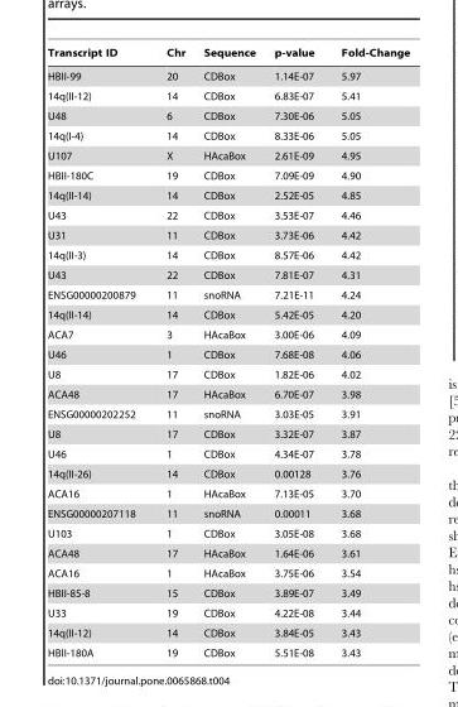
<table><thead><tr><td>Transcript ID</td><td>Chr</td><td>Sequence</td><td>p-value</td><td>Fold-Change</td></tr></thead><tbody><tr><td>HBII-99</td><td>20</td><td>CDBox</td><td>1.14E-07</td><td>5.97</td></tr><tr><td>14q(II-12)</td><td>14</td><td>CDBox</td><td>6.83E-07</td><td>5.41</td></tr><tr><td>U48</td><td>6</td><td>CDBox</td><td>7.30E-06</td><td>5.05</td></tr><tr><td>14q(I-4)</td><td>14</td><td>CDBox</td><td>8.33E-06</td><td>5.05</td></tr><tr><td>U107</td><td>X</td><td>HAcaBox</td><td>2.61E-09</td><td>4.95</td></tr><tr><td>HBII-180C</td><td>19</td><td>CDBox</td><td>7.09E-09</td><td>4.90</td></tr><tr><td>14q(II-14)</td><td>14</td><td>CDBox</td><td>2.52E-05</td><td>4.85</td></tr><tr><td>U43</td><td>22</td><td>CDBox</td><td>3.53E-07</td><td>4.46</td></tr><tr><td>U31</td><td>11</td><td>CDBox</td><td>3.73E-06</td><td>4.42</td></tr><tr><td>14q(II-3)</td><td>14</td><td>CDBox</td><td>8.57E-06</td><td>4.42</td></tr><tr><td>U43</td><td>22</td><td>CDBox</td><td>7.81E-07</td><td>4.31</td></tr><tr><td>ENSG00000200879</td><td>11</td><td>snoRNA</td><td>7.21E-11</td><td>4.24</td></tr><tr><td>14q(II-14)</td><td>14</td><td>CDBox</td><td>5.42E-05</td><td>4.20</td></tr><tr><td>ACA7</td><td>3</td><td>HAcaBox</td><td>3.00E-06</td><td>4.09</td></tr><tr><td>U46</td><td>1</td><td>CDBox</td><td>7.68E-08</td><td>4.06</td></tr><tr><td>U8</td><td>17</td><td>CDBox</td><td>1.82E-06</td><td>4.02</td></tr><tr><td>ACA48</td><td>17</td><td>HAcaBox</td><td>6.70E-07</td><td>3.98</td></tr><tr><td>ENSG00000202252</td><td>11</td><td>snoRNA</td><td>3.03E-05</td><td>3.91</td></tr><tr><td>U8</td><td>17</td><td>CDBox</td><td>3.32E-07</td><td>3.87</td></tr><tr><td>U46</td><td>1</td><td>CDBox</td><td>4.34E-07</td><td>3.78</td></tr><tr><td>14q(II-26)</td><td>14</td><td>CDBox</td><td>0.00128</td><td>3.76</td></tr><tr><td>ACA16</td><td>1</td><td>HAcaBox</td><td>7.13E-05</td><td>3.70</td></tr><tr><td>ENSG00000207118</td><td>11</td><td>snoRNA</td><td>0.00011</td><td>3.68</td></tr><tr><td>U103</td><td>1</td><td>CDBox</td><td>3.05E-08</td><td>3.68</td></tr><tr><td>ACA48</td><td>17</td><td>HAcaBox</td><td>1.64E-06</td><td>3.61</td></tr><tr><td>ACA16</td><td>1</td><td>HAcaBox</td><td>3.75E-06</td><td>3.54</td></tr><tr><td>HBII-85-8</td><td>15</td><td>CDBox</td><td>3.89E-07</td><td>3.49</td></tr><tr><td>U33</td><td>19</td><td>CDBox</td><td>4.22E-08</td><td>3.44</td></tr><tr><td>14q(II-12)</td><td>14</td><td>CDBox</td><td>3.84E-05</td><td>3.43</td></tr><tr><td>HBII-180A</td><td>19</td><td>CDBox</td><td>5.51E-08</td><td>3.43</td></tr></tbody></table>